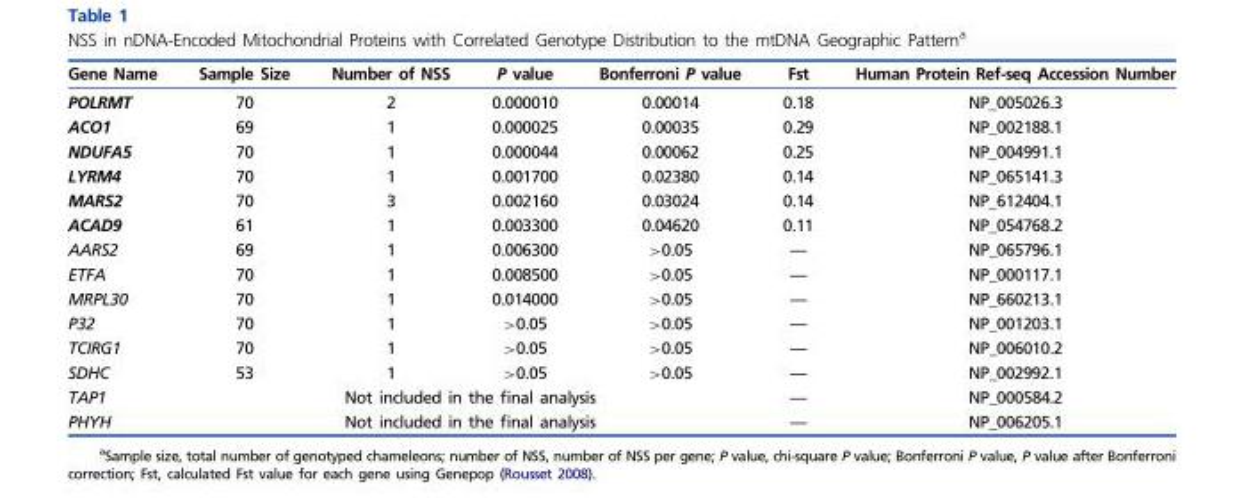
<table><thead><tr><td>Gene Name</td><td>Sample Size</td><td>Number of NSS</td><td>P value</td><td>Bonferroni P value</td><td>Fst</td><td>Human Protein Ref-seq Accession Number</td></tr></thead><tbody><tr><td>POLRMT</td><td>70</td><td>2</td><td>0.000010</td><td>0.00014</td><td>0.18</td><td>NP_005026.3</td></tr><tr><td>ACO1</td><td>69</td><td>1</td><td>0.000025</td><td>0.00035</td><td>0.29</td><td>NP_002188.1</td></tr><tr><td>NDUFA5</td><td>70</td><td>1</td><td>0.000044</td><td>0.00062</td><td>0.25</td><td>NP_004991.1</td></tr><tr><td>LYRM4</td><td>70</td><td>1</td><td>0.001700</td><td>0.02380</td><td>0.14</td><td>NP_065141.3</td></tr><tr><td>MARS2</td><td>70</td><td>3</td><td>0.002160</td><td>0.03024</td><td>0.14</td><td>NP_612404.1</td></tr><tr><td>ACAD9</td><td>61</td><td>1</td><td>0.003300</td><td>0.04620</td><td>0.11</td><td>NP_054768.2</td></tr><tr><td>AARS2</td><td>69</td><td>1</td><td>0.006300</td><td>&gt;0.05</td><td>—</td><td>NP_065796.1</td></tr><tr><td>ETFA</td><td>70</td><td>1</td><td>0.008500</td><td>&gt;0.05</td><td>—</td><td>NP_000117.1</td></tr><tr><td>MRPL30</td><td>70</td><td>1</td><td>0.014000</td><td>&gt;0.05</td><td>—</td><td>NP_660213.1</td></tr><tr><td>P32</td><td>70</td><td>1</td><td>&gt;0.05</td><td>&gt;0.05</td><td>—</td><td>NP_001203.1</td></tr><tr><td>TCIRG1</td><td>70</td><td>1</td><td>&gt;0.05</td><td>&gt;0.05</td><td>—</td><td>NP_006010.2</td></tr><tr><td>SDHC</td><td>53</td><td>1</td><td>&gt;0.05</td><td>&gt;0.05</td><td>—</td><td>NP_002992.1</td></tr><tr><td>TAP1</td><td colspan="4">Not included in the final analysis</td><td>—</td><td>NP_000584.2</td></tr><tr><td>PHYH</td><td colspan="4">Not included in the final analysis</td><td>—</td><td>NP_006205.1</td></tr></tbody></table>